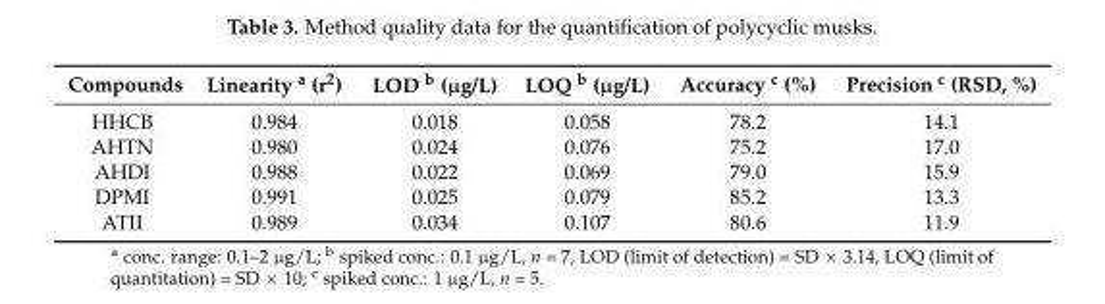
<table><thead><tr><td>Compounds</td><td>Linearity <sup>a</sup> (r<sup>2</sup>)</td><td>LOD <sup>b</sup> (µg/L)</td><td>LOQ <sup>b</sup> (µg/L)</td><td>Accuracy <sup>c</sup> (%)</td><td>Precision <sup>c</sup> (RSD, %)</td></tr></thead><tbody><tr><td>HHCB</td><td>0.984</td><td>0.018</td><td>0.058</td><td>78.2</td><td>14.1</td></tr><tr><td>AHTN</td><td>0.980</td><td>0.024</td><td>0.076</td><td>75.2</td><td>17.0</td></tr><tr><td>AHDI</td><td>0.988</td><td>0.022</td><td>0.069</td><td>79.0</td><td>15.9</td></tr><tr><td>DPMI</td><td>0.991</td><td>0.025</td><td>0.079</td><td>85.2</td><td>13.3</td></tr><tr><td>ATII</td><td>0.989</td><td>0.034</td><td>0.107</td><td>80.6</td><td>11.9</td></tr></tbody></table>